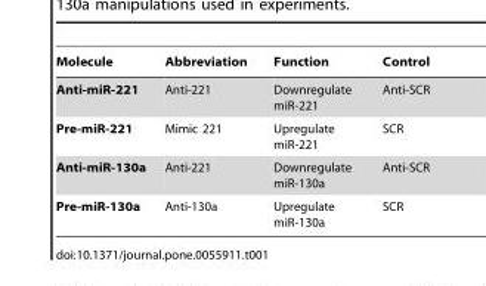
<table><thead><tr><td>Molecule</td><td>Abbreviation</td><td>Function</td><td>Control</td></tr></thead><tbody><tr><td>Anti-miR-221</td><td>Anti-221</td><td>Downregulate miR-221</td><td>Anti-SCR</td></tr><tr><td>Pre-miR-221</td><td>Mimic 221</td><td>Upregulate miR-221</td><td>SCR</td></tr><tr><td>Anti-miR-130a</td><td>Anti-221</td><td>Downregulate miR-130a</td><td>Anti-SCR</td></tr><tr><td>Pre-miR-130a</td><td>Anti-130a</td><td>Upregulate miR-130a</td><td>SCR</td></tr></tbody></table>